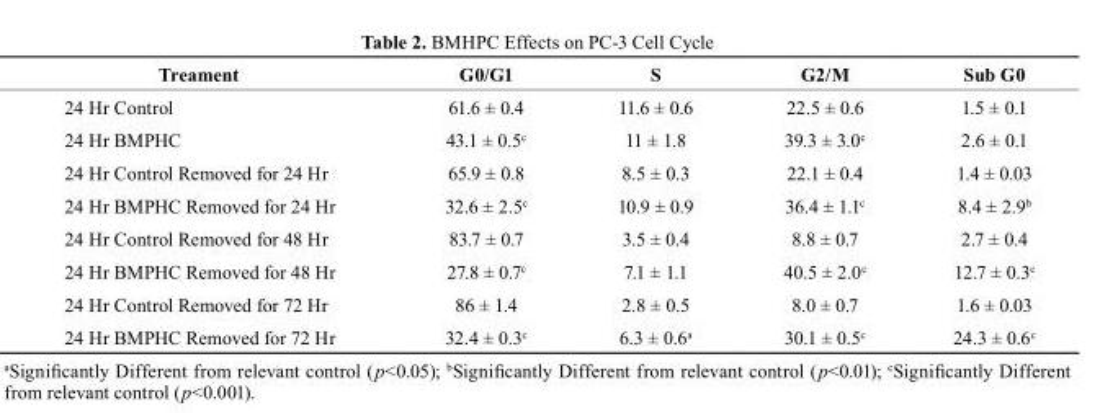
<table><thead><tr><td>Treament</td><td>G0/G1</td><td>S</td><td>G2/M</td><td>Sub G0</td></tr></thead><tbody><tr><td>24 Hr Control</td><td>61.6 ± 0.4</td><td>11.6 ± 0.6</td><td>22.5 ± 0.6</td><td>1.5 ± 0.1</td></tr><tr><td>24 Hr BMPHC</td><td>43.1 ± 0.5<sup>c</sup></td><td>11 ± 1.8</td><td>39.3 ± 3.0<sup>c</sup></td><td>2.6 ± 0.1</td></tr><tr><td>24 Hr Control Removed for 24 Hr</td><td>65.9 ± 0.8</td><td>8.5 ± 0.3</td><td>22.1 ± 0.4</td><td>1.4 ± 0.03</td></tr><tr><td>24 Hr BMPHC Removed for 24 Hr</td><td>32.6 ± 2.5<sup>c</sup></td><td>10.9 ± 0.9</td><td>36.4 ± 1.1<sup>c</sup></td><td>8.4 ± 2.9<sup>b</sup></td></tr><tr><td>24 Hr Control Removed for 48 Hr</td><td>83.7 ± 0.7</td><td>3.5 ± 0.4</td><td>8.8 ± 0.7</td><td>2.7 ± 0.4</td></tr><tr><td>24 Hr BMPHC Removed for 48 Hr</td><td>27.8 ± 0.7<sup>c</sup></td><td>7.1 ± 1.1</td><td>40.5 ± 2.0<sup>c</sup></td><td>12.7 ± 0.3<sup>c</sup></td></tr><tr><td>24 Hr Control Removed for 72 Hr</td><td>86 ± 1.4</td><td>2.8 ± 0.5</td><td>8.0 ± 0.7</td><td>1.6 ± 0.03</td></tr><tr><td>24 Hr BMPHC Removed for 72 Hr</td><td>32.4 ± 0.3<sup>c</sup></td><td>6.3 ± 0.6<sup>a</sup></td><td>30.1 ± 0.5<sup>c</sup></td><td>24.3 ± 0.6<sup>c</sup></td></tr></tbody></table>